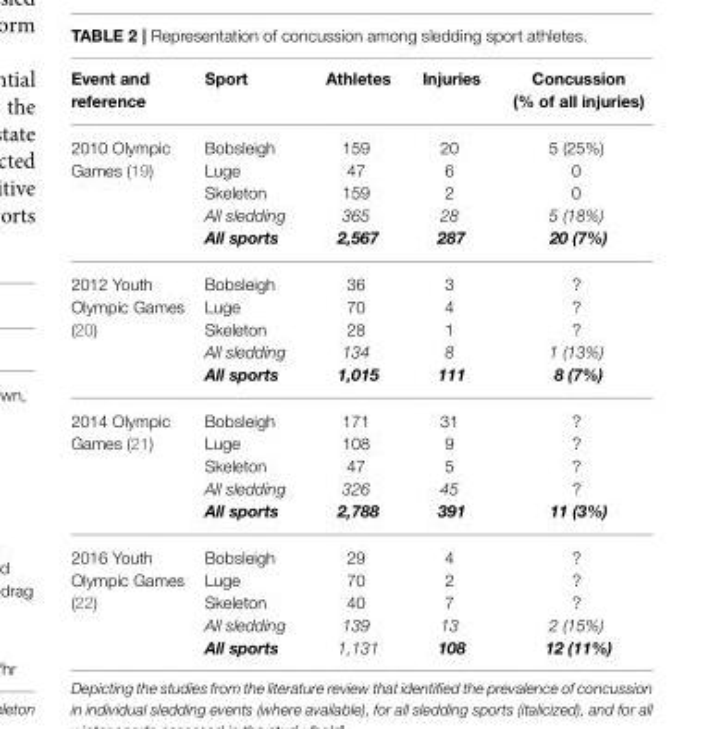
<table><thead><tr><td>Event and reference</td><td>Sport</td><td>Athletes</td><td>Injuries</td><td>Concussion (% of all injuries)</td></tr></thead><tbody><tr><td>2010 Olympic Games (19)</td><td>Bobsleigh Luge Skeleton All sledding All sports</td><td>159 47 159 365 2,567</td><td>20 6 2 28 287</td><td>5 (25%) 0 0 5 (18%) 20 (7%)</td></tr><tr><td>2012 Youth Olympic Games (20)</td><td>Bobsleigh Luge Skeleton All sledding All sports</td><td>36 70 28 134 1,015</td><td>3 4 1 8 111</td><td>? ? ? 1 (13%) 8 (7%)</td></tr><tr><td>2014 Olympic Games (21)</td><td>Bobsleigh Luge Skeleton All sledding All sports</td><td>171 108 47 326 2,788</td><td>31 9 5 45 391</td><td>? ? ? ? 11 (3%)</td></tr><tr><td>2016 Youth Olympic Games (22)</td><td>Bobsleigh Luge Skeleton All sledding All sports</td><td>29 70 40 139 1,131</td><td>4 2 7 13 108</td><td>? ? ? 2 (15%) 12 (11%)</td></tr></tbody></table>